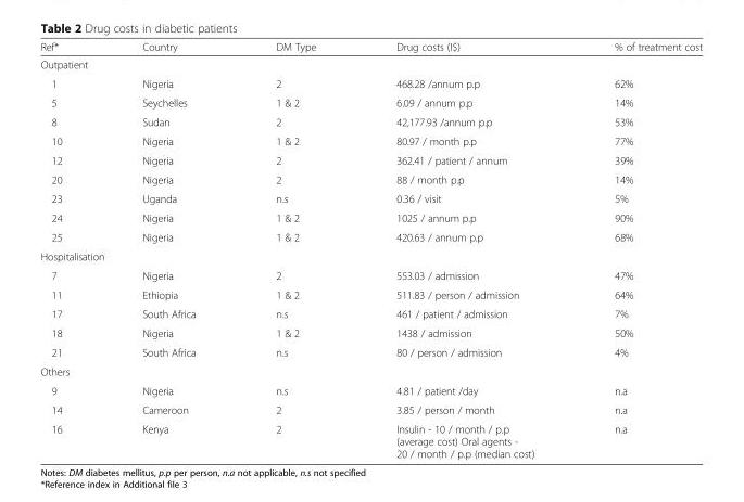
<table><thead><tr><td>Ref*</td><td>Country</td><td>DM Type</td><td>Drug costs (I$)</td><td>% of treatment cost</td></tr></thead><tbody><tr><td colspan="5">Outpatient</td></tr><tr><td>1</td><td>Nigeria</td><td>2</td><td>468.28 /annum p.p</td><td>62%</td></tr><tr><td>5</td><td>Seychelles</td><td>1 &amp; 2</td><td>6.09 / annum p.p</td><td>14%</td></tr><tr><td>8</td><td>Sudan</td><td>2</td><td>42,177.93 /annum p.p</td><td>53%</td></tr><tr><td>10</td><td>Nigeria</td><td>1 &amp; 2</td><td>80.97 / month p.p</td><td>77%</td></tr><tr><td>12</td><td>Nigeria</td><td>2</td><td>362.41 / patient / annum</td><td>39%</td></tr><tr><td>20</td><td>Nigeria</td><td>2</td><td>88 / month p.p</td><td>14%</td></tr><tr><td>23</td><td>Uganda</td><td>n.s</td><td>0.36 / visit</td><td>5%</td></tr><tr><td>24</td><td>Nigeria</td><td>1 &amp; 2</td><td>1025 / annum p.p</td><td>90%</td></tr><tr><td>25</td><td>Nigeria</td><td>1 &amp; 2</td><td>420.63 / annum p.p</td><td>68%</td></tr><tr><td colspan="5">Hospitalisation</td></tr><tr><td>7</td><td>Nigeria</td><td>2</td><td>553.03 / admission</td><td>47%</td></tr><tr><td>11</td><td>Ethiopia</td><td>1 &amp; 2</td><td>511.83 / person / admission</td><td>64%</td></tr><tr><td>17</td><td>South Africa</td><td>n.s</td><td>461 / patient / admission</td><td>7%</td></tr><tr><td>18</td><td>Nigeria</td><td>1 &amp; 2</td><td>1438 / admission</td><td>50%</td></tr><tr><td>21</td><td>South Africa</td><td>n.s</td><td>80 / person / admission</td><td>4%</td></tr><tr><td colspan="5">Others</td></tr><tr><td>9</td><td>Nigeria</td><td>n.s</td><td>4.81 / patient /day</td><td>n.a</td></tr><tr><td>14</td><td>Cameroon</td><td>2</td><td>3.85 / person / month</td><td>n.a</td></tr><tr><td>16</td><td>Kenya</td><td>2</td><td>Insulin - 10 / month / p.p (average cost) Oral agents - 20 / month / p.p (median cost)</td><td>n.a</td></tr></tbody></table>